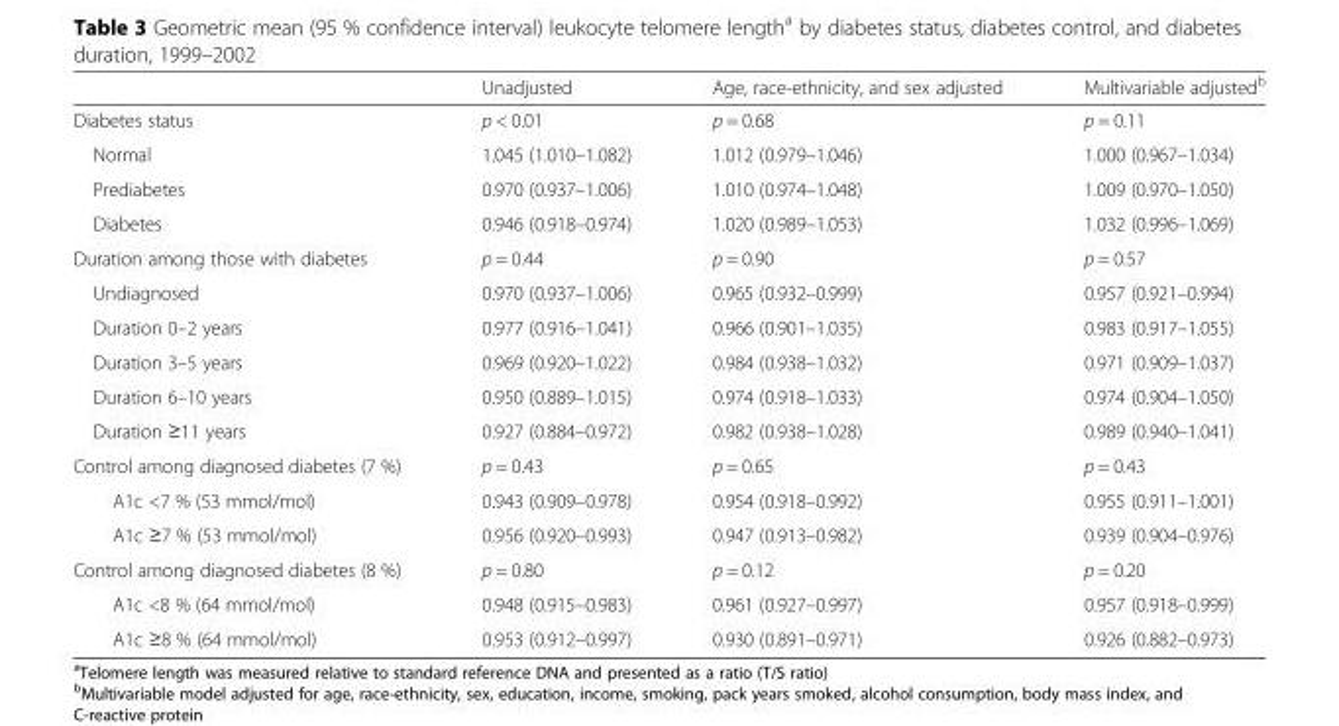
<table><thead><tr><td></td><td>Unadjusted</td><td>Age, race-ethnicity, and sex adjusted</td><td>Multivariable adjusted<sup>b</sup></td></tr></thead><tbody><tr><td>Diabetes status</td><td>p &lt; 0.01</td><td>p = 0.68</td><td>p = 0.11</td></tr><tr><td>Normal</td><td>1.045 (1.010–1.082)</td><td>1.012 (0.979–1.046)</td><td>1.000 (0.967–1.034)</td></tr><tr><td>Prediabetes</td><td>0.970 (0.937–1.006)</td><td>1.010 (0.974–1.048)</td><td>1.009 (0.970–1.050)</td></tr><tr><td>Diabetes</td><td>0.946 (0.918–0.974)</td><td>1.020 (0.989–1.053)</td><td>1.032 (0.996–1.069)</td></tr><tr><td>Duration among those with diabetes</td><td>p = 0.44</td><td>p = 0.90</td><td>p = 0.57</td></tr><tr><td>Undiagnosed</td><td>0.970 (0.937–1.006)</td><td>0.965 (0.932–0.999)</td><td>0.957 (0.921–0.994)</td></tr><tr><td>Duration 0–2 years</td><td>0.977 (0.916–1.041)</td><td>0.966 (0.901–1.035)</td><td>0.983 (0.917–1.055)</td></tr><tr><td>Duration 3–5 years</td><td>0.969 (0.920–1.022)</td><td>0.984 (0.938–1.032)</td><td>0.971 (0.909–1.037)</td></tr><tr><td>Duration 6–10 years</td><td>0.950 (0.889–1.015)</td><td>0.974 (0.918–1.033)</td><td>0.974 (0.904–1.050)</td></tr><tr><td>Duration ≥11 years</td><td>0.927 (0.884–0.972)</td><td>0.982 (0.938–1.028)</td><td>0.989 (0.940–1.041)</td></tr><tr><td>Control among diagnosed diabetes (7 %)</td><td>p = 0.43</td><td>p = 0.65</td><td>p = 0.43</td></tr><tr><td>A1c &lt;7 % (53 mmol/mol)</td><td>0.943 (0.909–0.978)</td><td>0.954 (0.918–0.992)</td><td>0.955 (0.911–1.001)</td></tr><tr><td>A1c ≥7 % (53 mmol/mol)</td><td>0.956 (0.920–0.993)</td><td>0.947 (0.913–0.982)</td><td>0.939 (0.904–0.976)</td></tr><tr><td>Control among diagnosed diabetes (8 %)</td><td>p = 0.80</td><td>p = 0.12</td><td>p = 0.20</td></tr><tr><td>A1c &lt;8 % (64 mmol/mol)</td><td>0.948 (0.915–0.983)</td><td>0.961 (0.927–0.997)</td><td>0.957 (0.918–0.999)</td></tr><tr><td>A1c ≥8 % (64 mmol/mol)</td><td>0.953 (0.912–0.997)</td><td>0.930 (0.891–0.971)</td><td>0.926 (0.882–0.973)</td></tr></tbody></table>